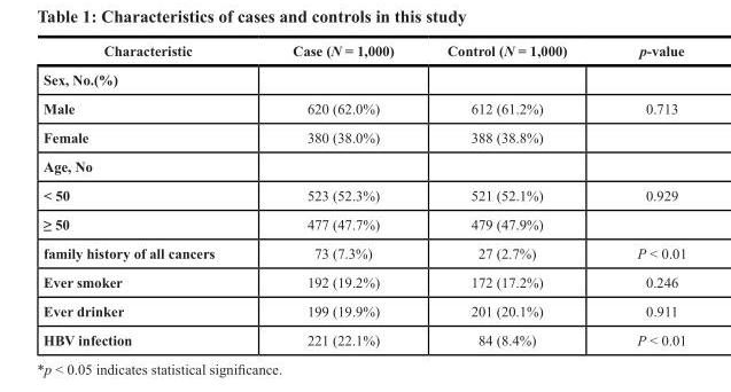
<table><thead><tr><td>Characteristic</td><td>Case (N = 1,000)</td><td>Control (N = 1,000)</td><td>p-value</td></tr></thead><tbody><tr><td colspan="4">Sex, No.(%)</td></tr><tr><td>Male</td><td>620 (62.0%)</td><td>612 (61.2%)</td><td>0.713</td></tr><tr><td>Female</td><td>380 (38.0%)</td><td>388 (38.8%)</td><td></td></tr><tr><td colspan="4">Age, No</td></tr><tr><td>&lt; 50</td><td>523 (52.3%)</td><td>521 (52.1%)</td><td>0.929</td></tr><tr><td>≥ 50</td><td>477 (47.7%)</td><td>479 (47.9%)</td><td></td></tr><tr><td>family history of all cancers</td><td>73 (7.3%)</td><td>27 (2.7%)</td><td>P &lt; 0.01</td></tr><tr><td>Ever smoker</td><td>192 (19.2%)</td><td>172 (17.2%)</td><td>0.246</td></tr><tr><td>Ever drinker</td><td>199 (19.9%)</td><td>201 (20.1%)</td><td>0.911</td></tr><tr><td>HBV infection</td><td>221 (22.1%)</td><td>84 (8.4%)</td><td>P &lt; 0.01</td></tr></tbody></table>